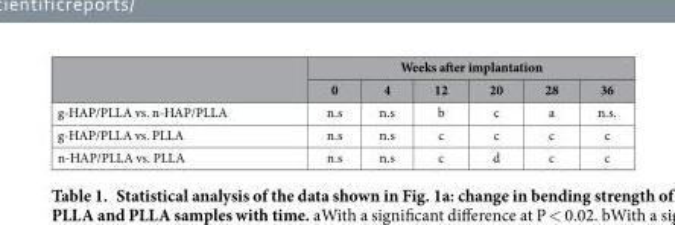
<table><thead><tr><td rowspan="2"></td><td colspan="6">Weeks after implantation</td></tr><tr><td>0</td><td>4</td><td>12</td><td>20</td><td>28</td><td>36</td></tr></thead><tbody><tr><td>g-HAP/PLLA vs. n-HAP/PLLA</td><td>n.s</td><td>n.s</td><td>b</td><td>c</td><td>a</td><td>n.s.</td></tr><tr><td>g-HAP/PLLA vs. PLLA</td><td>n.s</td><td>n.s</td><td>c</td><td>c</td><td>c</td><td>c</td></tr><tr><td>n-HAP/PLLA vs. PLLA</td><td>n.s</td><td>n.s</td><td>c</td><td>d</td><td>c</td><td>c</td></tr></tbody></table>